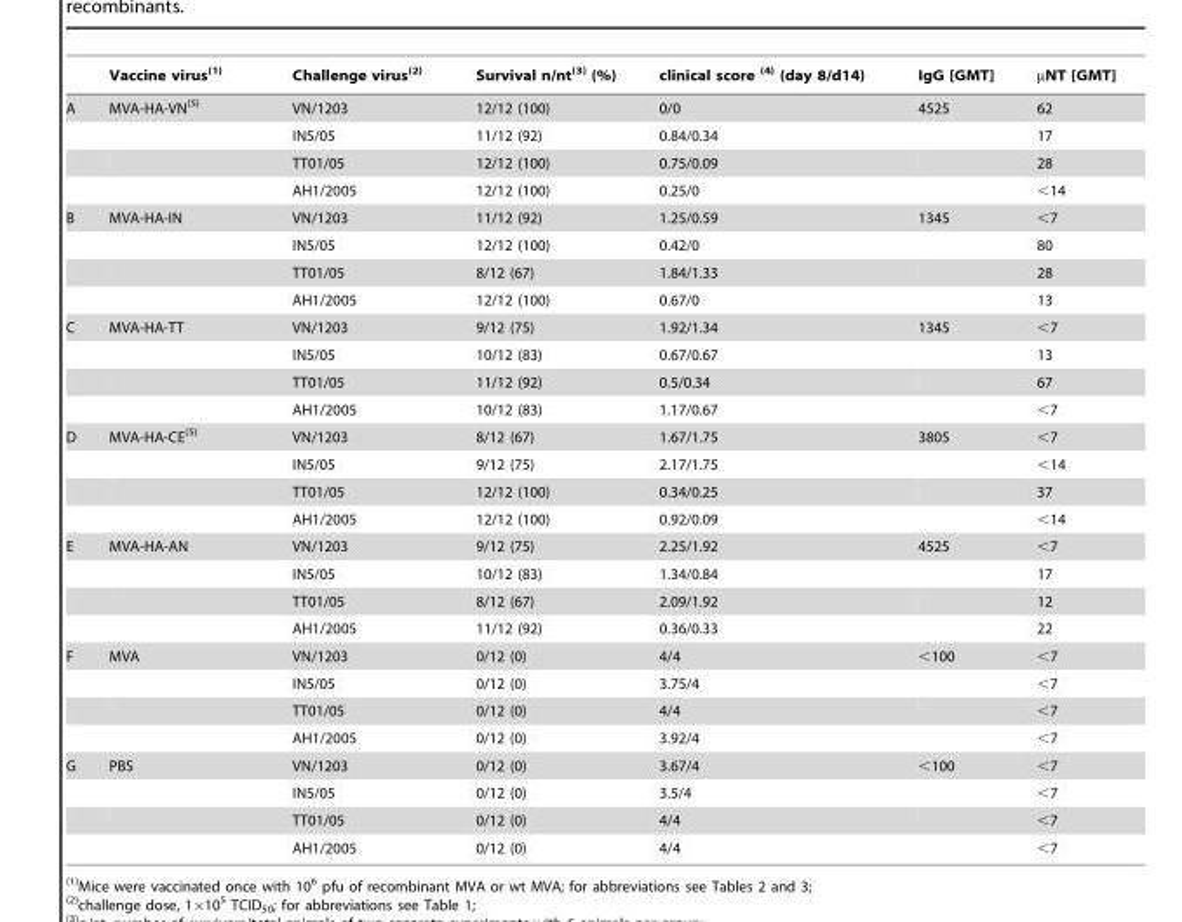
<table><thead><tr><td></td><td>Vaccine virus(1)</td><td>Challenge virus(2)</td><td>Survival n/nt(3) (%)</td><td>clinical score (4) (day 8/d14)</td><td>IgG [GMT]</td><td>µNT [GMT]</td></tr></thead><tbody><tr><td rowspan="4">A</td><td>MVA-HA-VN(5)</td><td>VN/1203</td><td>12/12 (100)</td><td>0/0</td><td>4525</td><td>62</td></tr><tr><td></td><td>IN5/05</td><td>11/12 (92)</td><td>0.84/0.34</td><td></td><td>17</td></tr><tr><td></td><td>TT01/05</td><td>12/12 (100)</td><td>0.75/0.09</td><td></td><td>28</td></tr><tr><td></td><td>AH1/2005</td><td>12/12 (100)</td><td>0.25/0</td><td></td><td>&lt;14</td></tr><tr><td rowspan="4">B</td><td>MVA-HA-IN</td><td>VN/1203</td><td>11/12 (92)</td><td>1.25/0.59</td><td>1345</td><td>&lt;7</td></tr><tr><td></td><td>IN5/05</td><td>12/12 (100)</td><td>0.42/0</td><td></td><td>80</td></tr><tr><td></td><td>TT01/05</td><td>8/12 (67)</td><td>1.84/1.33</td><td></td><td>28</td></tr><tr><td></td><td>AH1/2005</td><td>12/12 (100)</td><td>0.67/0</td><td></td><td>13</td></tr><tr><td rowspan="4">C</td><td>MVA-HA-TT</td><td>VN/1203</td><td>9/12 (75)</td><td>1.92/1.34</td><td>1345</td><td>&lt;7</td></tr><tr><td></td><td>IN5/05</td><td>10/12 (83)</td><td>0.67/0.67</td><td></td><td>13</td></tr><tr><td></td><td>TT01/05</td><td>11/12 (92)</td><td>0.5/0.34</td><td></td><td>67</td></tr><tr><td></td><td>AH1/2005</td><td>10/12 (83)</td><td>1.17/0.67</td><td></td><td>&lt;7</td></tr><tr><td rowspan="4">D</td><td>MVA-HA-CE(5)</td><td>VN/1203</td><td>8/12 (67)</td><td>1.67/1.75</td><td>3805</td><td>&lt;7</td></tr><tr><td></td><td>IN5/05</td><td>9/12 (75)</td><td>2.17/1.75</td><td></td><td>&lt;14</td></tr><tr><td></td><td>TT01/05</td><td>12/12 (100)</td><td>0.34/0.25</td><td></td><td>37</td></tr><tr><td></td><td>AH1/2005</td><td>12/12 (100)</td><td>0.92/0.09</td><td></td><td>&lt;14</td></tr><tr><td rowspan="4">E</td><td>MVA-HA-AN</td><td>VN/1203</td><td>9/12 (75)</td><td>2.25/1.92</td><td>4525</td><td>&lt;7</td></tr><tr><td></td><td>IN5/05</td><td>10/12 (83)</td><td>1.34/0.84</td><td></td><td>17</td></tr><tr><td></td><td>TT01/05</td><td>8/12 (67)</td><td>2.09/1.92</td><td></td><td>12</td></tr><tr><td></td><td>AH1/2005</td><td>11/12 (92)</td><td>0.36/0.33</td><td></td><td>22</td></tr><tr><td rowspan="4">F</td><td>MVA</td><td>VN/1203</td><td>0/12 (0)</td><td>4/4</td><td>&lt;100</td><td>&lt;7</td></tr><tr><td></td><td>IN5/05</td><td>0/12 (0)</td><td>3.75/4</td><td></td><td>&lt;7</td></tr><tr><td></td><td>TT01/05</td><td>0/12 (0)</td><td>4/4</td><td></td><td>&lt;7</td></tr><tr><td></td><td>AH1/2005</td><td>0/12 (0)</td><td>3.92/4</td><td></td><td>&lt;7</td></tr><tr><td rowspan="4">G</td><td>PBS</td><td>VN/1203</td><td>0/12 (0)</td><td>3.67/4</td><td>&lt;100</td><td>&lt;7</td></tr><tr><td></td><td>IN5/05</td><td>0/12 (0)</td><td>3.5/4</td><td></td><td>&lt;7</td></tr><tr><td></td><td>TT01/05</td><td>0/12 (0)</td><td>4/4</td><td></td><td>&lt;7</td></tr><tr><td></td><td>AH1/2005</td><td>0/12 (0)</td><td>4/4</td><td></td><td>&lt;7</td></tr></tbody></table>